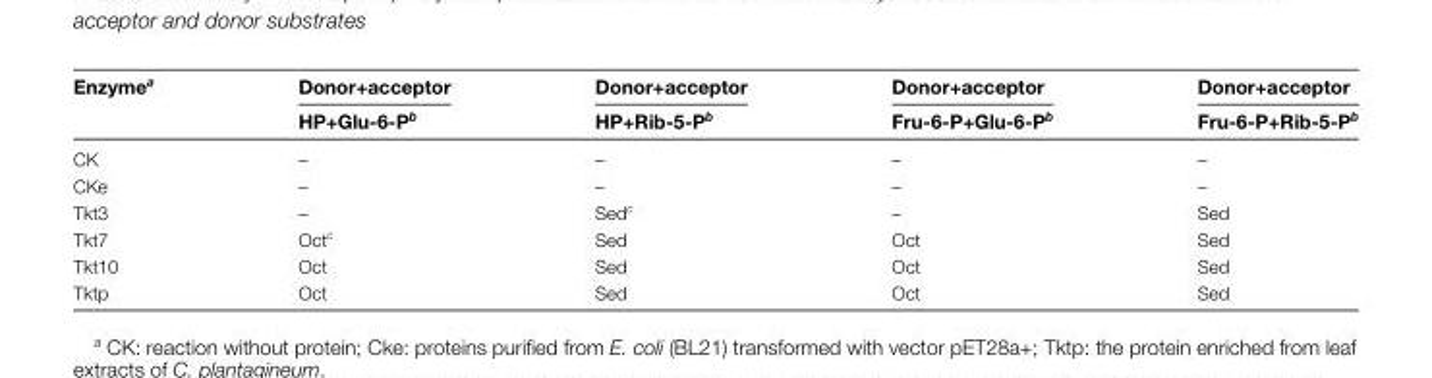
<table><thead><tr><td rowspan="2">Enzyme<sup>a</sup></td><td rowspan="2">Donor+acceptor HP+Glu-6-P<sup>b</sup></td><td rowspan="2">Donor+acceptor HP+Rib-5-P<sup>b</sup></td><td rowspan="2">Donor+acceptor Fru-6-P+Glu-6-P<sup>b</sup></td><td rowspan="2">Donor+acceptor Fru-6-P+Rib-5-P<sup>b</sup></td></tr><tr></tr></thead><tbody><tr><td>CK</td><td>–</td><td>–</td><td>–</td><td>–</td></tr><tr><td>CKe</td><td>–</td><td>–</td><td>–</td><td>–</td></tr><tr><td>Tkt3</td><td>–</td><td>Sed<sup>c</sup></td><td>–</td><td>Sed</td></tr><tr><td>Tkt7</td><td>Oct<sup>c</sup></td><td>Sed</td><td>Oct</td><td>Sed</td></tr><tr><td>Tkt10</td><td>Oct</td><td>Sed</td><td>Oct</td><td>Sed</td></tr><tr><td>Tktp</td><td>Oct</td><td>Sed</td><td>Oct</td><td>Sed</td></tr></tbody></table>